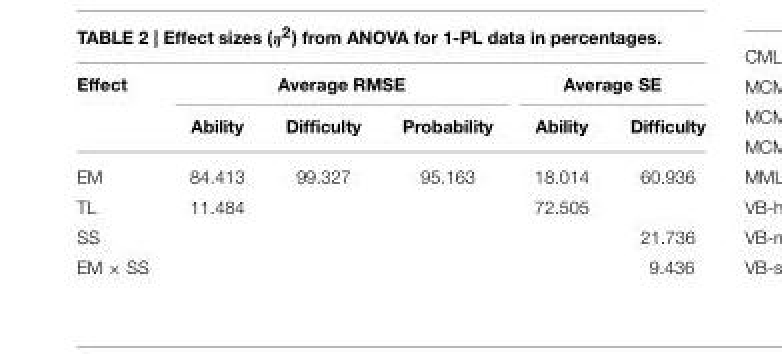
<table><thead><tr><td rowspan="2">Effect</td><td colspan="3">Average RMSE</td><td colspan="2">Average SE</td></tr><tr><td>Ability</td><td>Difficulty</td><td>Probability</td><td>Ability</td><td>Difficulty</td></tr></thead><tbody><tr><td>EM</td><td>84.413</td><td>99.327</td><td>95.163</td><td>18.014</td><td>60.936</td></tr><tr><td>TL</td><td>11.484</td><td></td><td></td><td>72.505</td><td></td></tr><tr><td>SS</td><td></td><td></td><td></td><td></td><td>21.736</td></tr><tr><td>EM × SS</td><td></td><td></td><td></td><td></td><td>9.436</td></tr></tbody></table>